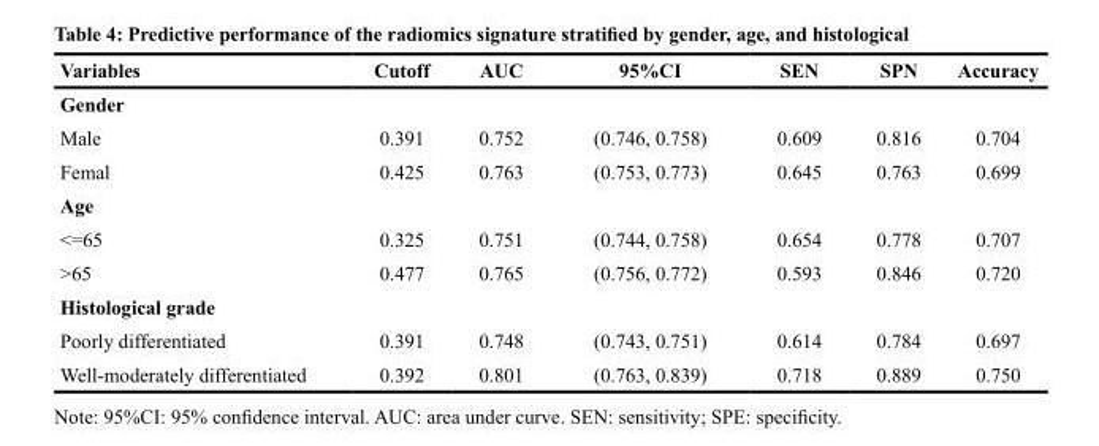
<table><thead><tr><td>Variables</td><td>Cutoff</td><td>AUC</td><td>95%CI</td><td>SEN</td><td>SPN</td><td>Accuracy</td></tr></thead><tbody><tr><td colspan="7">Gender</td></tr><tr><td>Male</td><td>0.391</td><td>0.752</td><td>(0.746, 0.758)</td><td>0.609</td><td>0.816</td><td>0.704</td></tr><tr><td>Femal</td><td>0.425</td><td>0.763</td><td>(0.753, 0.773)</td><td>0.645</td><td>0.763</td><td>0.699</td></tr><tr><td colspan="7">Age</td></tr><tr><td>&lt;=65</td><td>0.325</td><td>0.751</td><td>(0.744, 0.758)</td><td>0.654</td><td>0.778</td><td>0.707</td></tr><tr><td>&gt;65</td><td>0.477</td><td>0.765</td><td>(0.756, 0.772)</td><td>0.593</td><td>0.846</td><td>0.720</td></tr><tr><td colspan="7">Histological grade</td></tr><tr><td>Poorly differentiated</td><td>0.391</td><td>0.748</td><td>(0.743, 0.751)</td><td>0.614</td><td>0.784</td><td>0.697</td></tr><tr><td>Well-moderately differentiated</td><td>0.392</td><td>0.801</td><td>(0.763, 0.839)</td><td>0.718</td><td>0.889</td><td>0.750</td></tr></tbody></table>